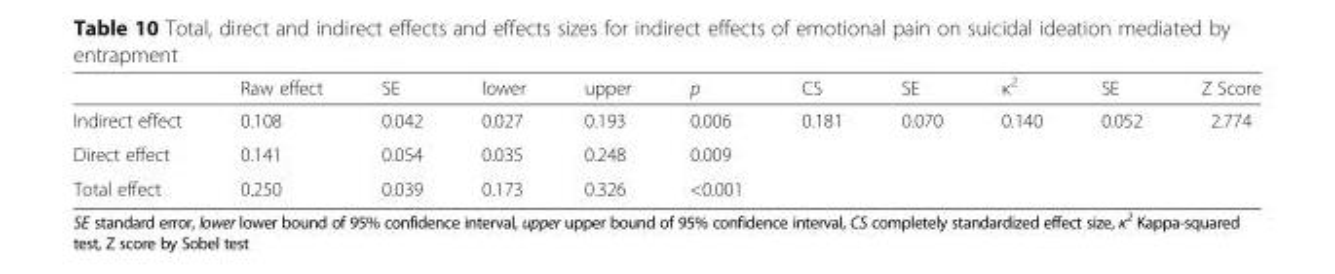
<table><thead><tr><td></td><td>Raw effect</td><td>SE</td><td>lower</td><td>upper</td><td>p</td><td>CS</td><td>SE</td><td>κ<sup>2</sup></td><td>SE</td><td>Z Score</td></tr></thead><tbody><tr><td>Indirect effect</td><td>0.108</td><td>0.042</td><td>0.027</td><td>0.193</td><td>0.006</td><td>0.181</td><td>0.070</td><td>0.140</td><td>0.052</td><td>2.774</td></tr><tr><td>Direct effect</td><td>0.141</td><td>0.054</td><td>0.035</td><td>0.248</td><td>0.009</td><td></td><td></td><td></td><td></td><td></td></tr><tr><td>Total effect</td><td>0.250</td><td>0.039</td><td>0.173</td><td>0.326</td><td>&lt;0.001</td><td></td><td></td><td></td><td></td><td></td></tr></tbody></table>